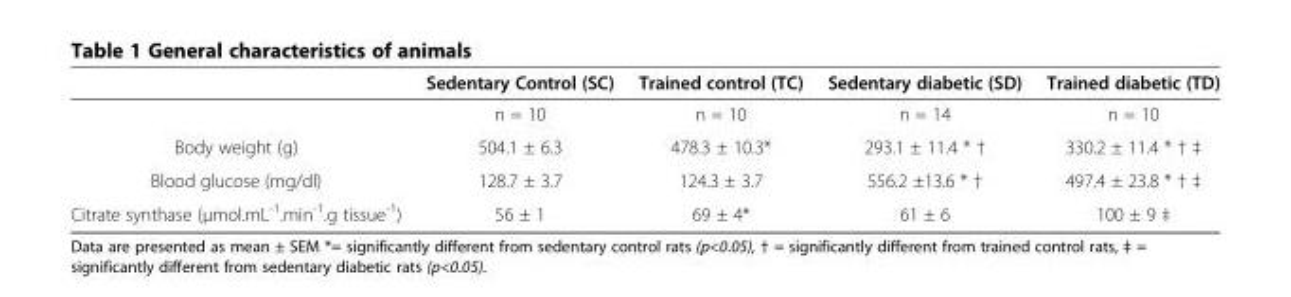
<table><thead><tr><td></td><td>Sedentary Control (SC)</td><td>Trained control (TC)</td><td>Sedentary diabetic (SD)</td><td>Trained diabetic (TD)</td></tr></thead><tbody><tr><td></td><td>n = 10</td><td>n = 10</td><td>n = 14</td><td>n = 10</td></tr><tr><td>Body weight (g)</td><td>504.1 ± 6.3</td><td>478.3 ± 10.3*</td><td>293.1 ± 11.4 * †</td><td>330.2 ± 11.4 * † ‡</td></tr><tr><td>Blood glucose (mg/dl)</td><td>128.7 ± 3.7</td><td>124.3 ± 3.7</td><td>556.2 ±13.6 * †</td><td>497.4 ± 23.8 * † ‡</td></tr><tr><td>Citrate synthase (μmol.mL<sup>-1</sup>.min<sup>-1</sup>.g tissue<sup>-1</sup>)</td><td>56 ± 1</td><td>69 ± 4*</td><td>61 ± 6</td><td>100 ± 9 ‡</td></tr></tbody></table>